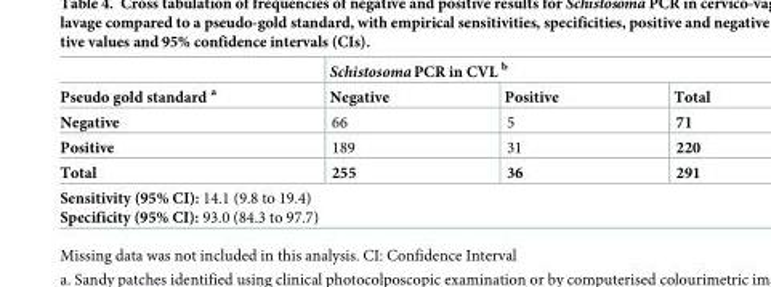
<table><thead><tr><td rowspan="2">Pseudo gold standard <sup>a</sup></td><td colspan="3">Schistosoma PCR in CVL <sup>b</sup></td></tr><tr><td>Negative</td><td>Positive</td><td>Total</td></tr></thead><tbody><tr><td>Negative</td><td>66</td><td>5</td><td>71</td></tr><tr><td>Positive</td><td>189</td><td>31</td><td>220</td></tr><tr><td>Total</td><td>255</td><td>36</td><td>291</td></tr><tr><td colspan="4">Sensitivity (95% CI): 14.1 (9.8 to 19.4) Specificity (95% CI): 93.0 (84.3 to 97.7)</td></tr></tbody></table>